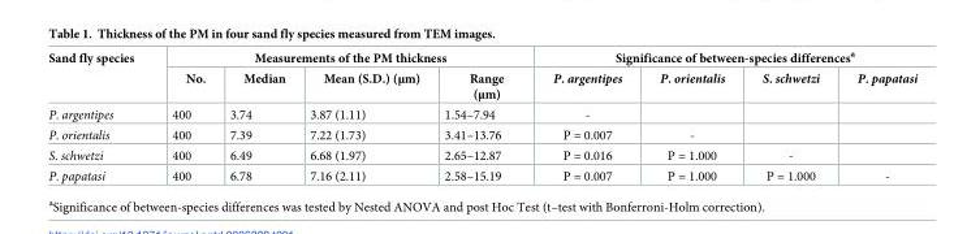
<table><thead><tr><td rowspan="2">Sand fly species</td><td colspan="4">Measurements of the PM thickness</td><td colspan="4">Significance of between-species differences<sup>a</sup></td></tr><tr><td>No.</td><td>Median</td><td>Mean (S.D.) (μm)</td><td>Range (μm)</td><td>P. argentipes</td><td>P. orientalis</td><td>S. schwetzi</td><td>P. papatasi</td></tr></thead><tbody><tr><td>P. argentipes</td><td>400</td><td>3.74</td><td>3.87 (1.11)</td><td>1.54–7.94</td><td>-</td><td></td><td></td><td></td></tr><tr><td>P. orientalis</td><td>400</td><td>7.39</td><td>7.22 (1.73)</td><td>3.41–13.76</td><td>P = 0.007</td><td>-</td><td></td><td></td></tr><tr><td>S. schwetzi</td><td>400</td><td>6.49</td><td>6.68 (1.97)</td><td>2.65–12.87</td><td>P = 0.016</td><td>P = 1.000</td><td>-</td><td></td></tr><tr><td>P. papatasi</td><td>400</td><td>6.78</td><td>7.16 (2.11)</td><td>2.58–15.19</td><td>P = 0.007</td><td>P = 1.000</td><td>P = 1.000</td><td>-</td></tr></tbody></table>